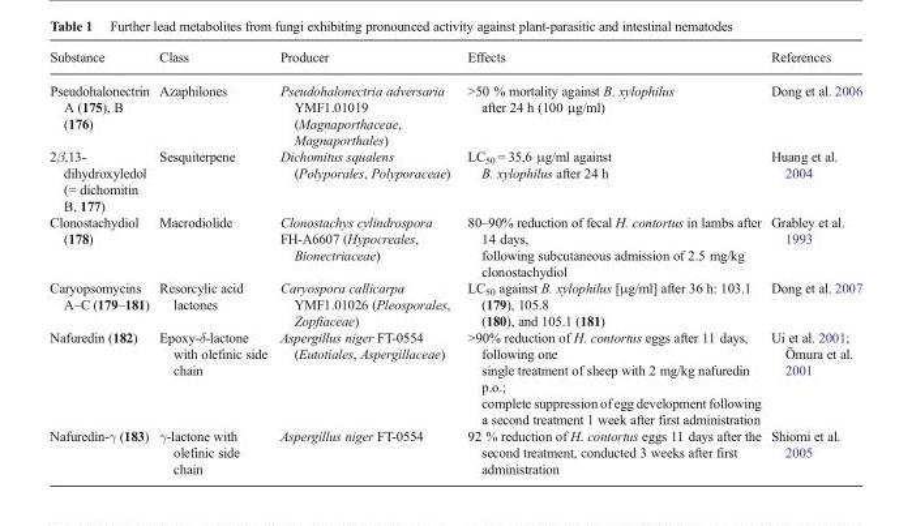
<table><thead><tr><td>Substance</td><td>Class</td><td>Producer</td><td>Effects</td><td>References</td></tr></thead><tbody><tr><td>Pseudohalonectrin A (175), B (176)</td><td>Azaphilones</td><td>Pseudohalonectria adversaria YMF1.01019 (Magnaporthaceae, Magnaporthales)</td><td>&gt;50 % mortality against B. xylophilus after 24 h (100 μg/ml)</td><td>Dong et al. 2006</td></tr><tr><td>2β,13- dihydroxyledol (= dichomitin B, 177)</td><td>Sesquiterpene</td><td>Dichomitus squalens (Polyporales, Polyporaceae)</td><td>LC<sub>50</sub> = 35,6 μg/ml against B. xylophilus after 24 h</td><td>Huang et al. 2004</td></tr><tr><td>Clonostachydiol (178)</td><td>Macrodiolide</td><td>Clonostachys cylindrospora FH-A6607 (Hypocreales, Bionectriaceae)</td><td>80–90% reduction of fecal H. contortus in lambs after 14 days, following subcutaneous admission of 2.5 mg/kg clonostachydiol</td><td>Grabley et al. 1993</td></tr><tr><td>Caryopsomycins A–C (179–181)</td><td>Resorcylic acid lactones</td><td>Caryospora callicarpa YMF1.01026 (Pleosporales, Zopfiaceae)</td><td>LC<sub>50</sub> against B. xylophilus [μg/ml] after 36 h: 103.1 (179), 105.8 (180), and 105.1 (181)</td><td>Dong et al. 2007</td></tr><tr><td>Nafuredin (182)</td><td>Epoxy-δ-lactone with olefinic side chain</td><td>Aspergillus niger FT-0554 (Eutotiales, Aspergillaceae)</td><td>&gt;90% reduction of H. contortus eggs after 11 days, following one single treatment of sheep with 2 mg/kg nafuredin p.o.; complete suppression of egg development following a second treatment 1 week after first administration</td><td>Ui et al. 2001; Ōmura et al. 2001</td></tr><tr><td>Nafuredin-γ (183)</td><td>γ-lactone with olefinic side chain</td><td>Aspergillus niger FT-0554</td><td>92 % reduction of H. contortus eggs 11 days after the second treatment, conducted 3 weeks after first administration</td><td>Shiomi et al. 2005</td></tr></tbody></table>